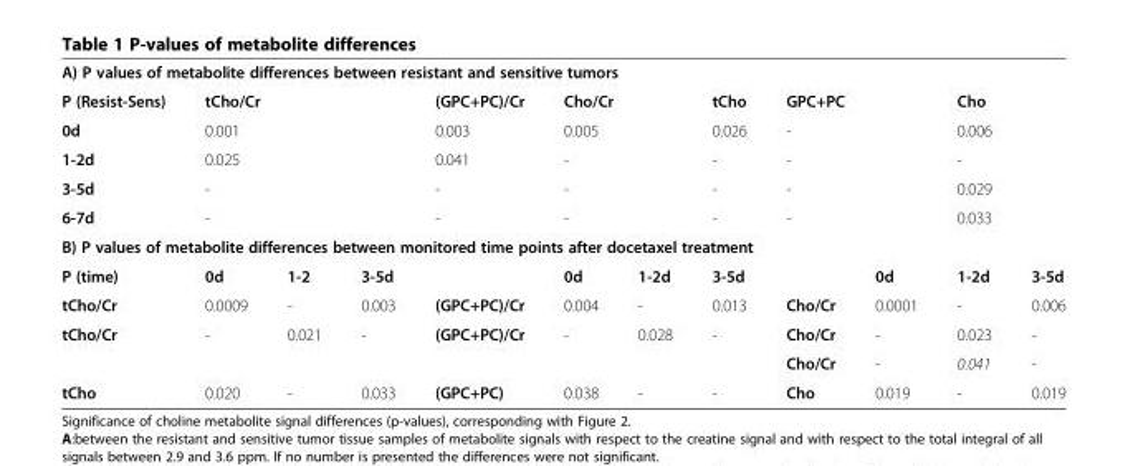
<table><tbody><tr><td colspan="12">A) P values of metabolite differences between resistant and sensitive tumors</td></tr><tr><td>P (Resist-Sens)</td><td colspan="3">tCho/Cr</td><td>(GPC+PC)/Cr</td><td colspan="2">Cho/Cr</td><td>tCho</td><td colspan="2">GPC+PC</td><td colspan="2">Cho</td></tr><tr><td>0d</td><td colspan="3">0.001</td><td>0.003</td><td colspan="2">0.005</td><td>0.026</td><td colspan="2">-</td><td colspan="2">0.006</td></tr><tr><td>1-2d</td><td colspan="3">0.025</td><td>0.041</td><td colspan="2">-</td><td>-</td><td colspan="2">-</td><td colspan="2">-</td></tr><tr><td>3-5d</td><td colspan="3">-</td><td>-</td><td colspan="2">-</td><td>-</td><td colspan="2">-</td><td colspan="2">0.029</td></tr><tr><td>6-7d</td><td colspan="3">-</td><td>-</td><td colspan="2">-</td><td>-</td><td colspan="2">-</td><td colspan="2">0.033</td></tr><tr><td colspan="12">B) P values of metabolite differences between monitored time points after docetaxel treatment</td></tr><tr><td>P (time)</td><td>0d</td><td>1-2</td><td>3-5d</td><td></td><td>0d</td><td>1-2d</td><td>3-5d</td><td></td><td>0d</td><td>1-2d</td><td>3-5d</td></tr><tr><td>tCho/Cr</td><td>0.0009</td><td>-</td><td>0.003</td><td>(GPC+PC)/Cr</td><td>0.004</td><td>-</td><td>0.013</td><td>Cho/Cr</td><td>0.0001</td><td>-</td><td>0.006</td></tr><tr><td rowspan="2">tCho/Cr</td><td>-</td><td>0.021</td><td>-</td><td>(GPC+PC)/Cr</td><td>-</td><td>0.028</td><td>-</td><td>Cho/Cr</td><td>-</td><td>0.023</td><td>-</td></tr><tr><td></td><td></td><td></td><td></td><td></td><td></td><td></td><td>Cho/Cr</td><td>-</td><td>0.041</td><td>-</td></tr><tr><td>tCho</td><td>0.020</td><td>-</td><td>0.033</td><td>(GPC+PC)</td><td>0.038</td><td>-</td><td>-</td><td>Cho</td><td>0.019</td><td>-</td><td>0.019</td></tr></tbody></table>